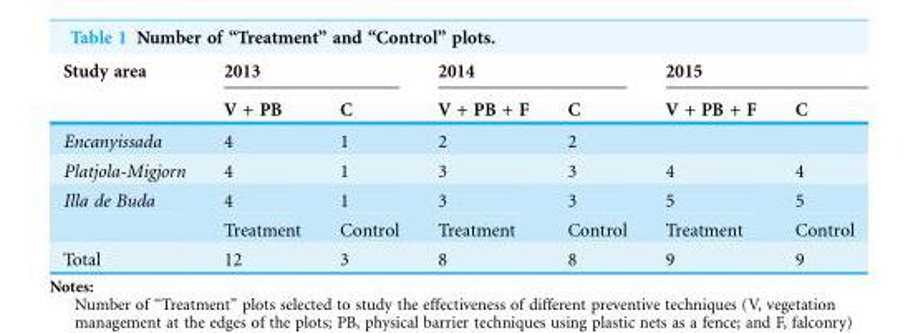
<table><thead><tr><td rowspan="2">Study area</td><td colspan="2">2013</td><td colspan="2">2014</td><td colspan="2">2015</td></tr><tr><td>V + PB</td><td>C</td><td>V + PB + F</td><td>C</td><td>V + PB + F</td><td>C</td></tr></thead><tbody><tr><td>Encanyissada</td><td>4</td><td>1</td><td>2</td><td>2</td><td></td><td></td></tr><tr><td>Platjola-Migjorn</td><td>4</td><td>1</td><td>3</td><td>3</td><td>4</td><td>4</td></tr><tr><td rowspan="2">Illa de Buda</td><td>4</td><td>1</td><td>3</td><td>3</td><td>5</td><td>5</td></tr><tr><td>Treatment</td><td>Control</td><td>Treatment</td><td>Control</td><td>Treatment</td><td>Control</td></tr><tr><td>Total</td><td>12</td><td>3</td><td>8</td><td>8</td><td>9</td><td>9</td></tr></tbody></table>